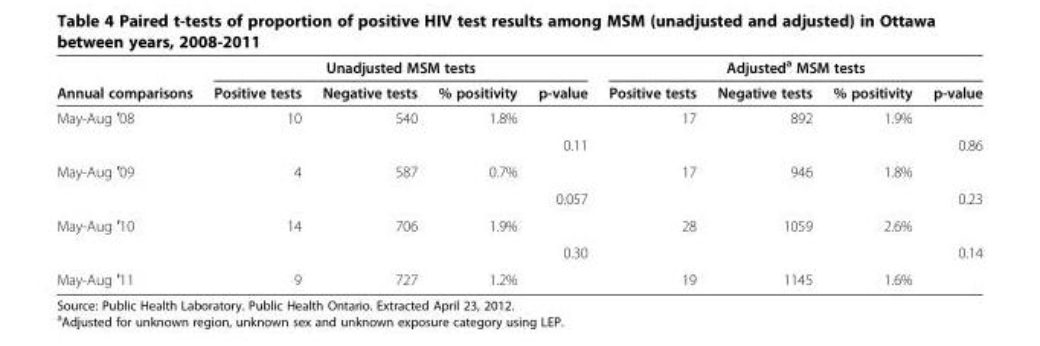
<table><thead><tr><td rowspan="2">Annual comparisons</td><td colspan="4">Unadjusted MSM tests</td><td colspan="4">Adjusted<sup>a</sup> MSM tests</td></tr><tr><td>Positive tests</td><td>Negative tests</td><td>% positivity</td><td>p-value</td><td>Positive tests</td><td>Negative tests</td><td>% positivity</td><td>p-value</td></tr></thead><tbody><tr><td rowspan="2">May-Aug ′08</td><td>10</td><td>540</td><td>1.8%</td><td></td><td>17</td><td>892</td><td>1.9%</td><td></td></tr><tr><td></td><td></td><td></td><td>0.11</td><td></td><td></td><td></td><td>0.86</td></tr><tr><td rowspan="2">May-Aug ′09</td><td>4</td><td>587</td><td>0.7%</td><td></td><td>17</td><td>946</td><td>1.8%</td><td></td></tr><tr><td></td><td></td><td></td><td>0.057</td><td></td><td></td><td></td><td>0.23</td></tr><tr><td rowspan="2">May-Aug ′10</td><td>14</td><td>706</td><td>1.9%</td><td></td><td>28</td><td>1059</td><td>2.6%</td><td></td></tr><tr><td></td><td></td><td></td><td>0.30</td><td></td><td></td><td></td><td>0.14</td></tr><tr><td>May-Aug ′11</td><td>9</td><td>727</td><td>1.2%</td><td></td><td>19</td><td>1145</td><td>1.6%</td><td></td></tr></tbody></table>